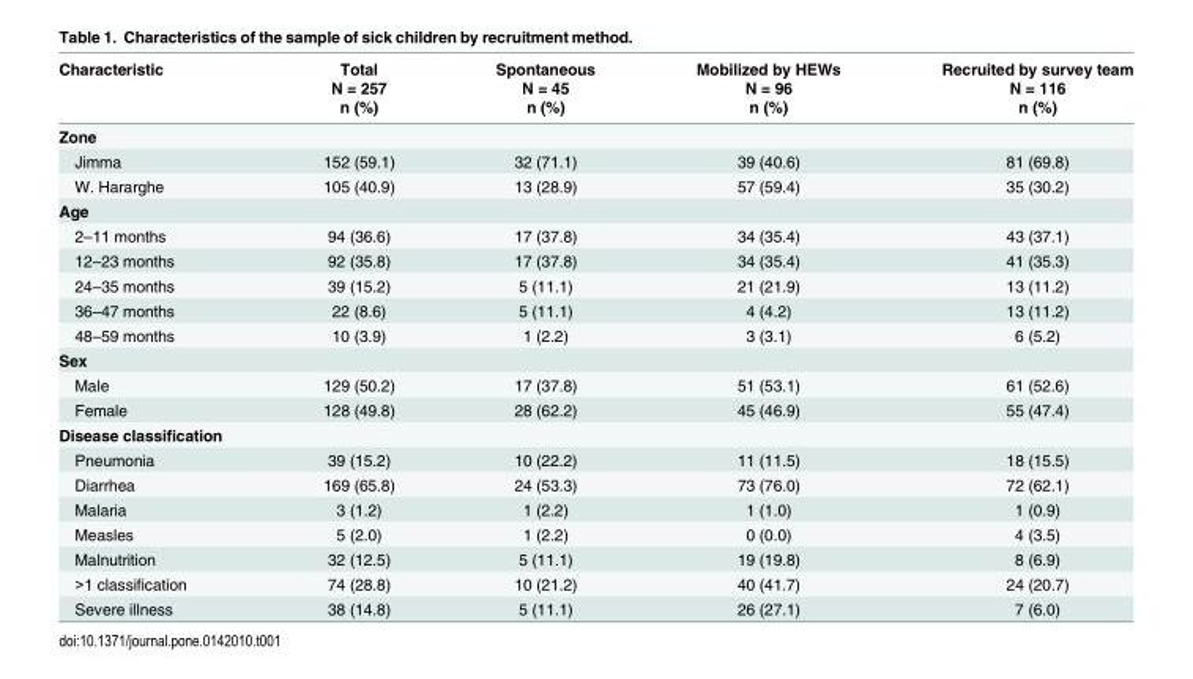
<table><thead><tr><td rowspan="3">Characteristic</td><td rowspan="3">Total N = 257 n (%)</td><td rowspan="3">Spontaneous N = 45 n (%)</td><td rowspan="3">Mobilized by HEWs N = 96 n (%)</td><td rowspan="3">Recruited by survey team N = 116 n (%)</td></tr><tr></tr><tr></tr></thead><tbody><tr><td colspan="5">Zone</td></tr><tr><td>Jimma</td><td>152 (59.1)</td><td>32 (71.1)</td><td>39 (40.6)</td><td>81 (69.8)</td></tr><tr><td>W. Hararghe</td><td>105 (40.9)</td><td>13 (28.9)</td><td>57 (59.4)</td><td>35 (30.2)</td></tr><tr><td colspan="5">Age</td></tr><tr><td>2–11 months</td><td>94 (36.6)</td><td>17 (37.8)</td><td>34 (35.4)</td><td>43 (37.1)</td></tr><tr><td>12–23 months</td><td>92 (35.8)</td><td>17 (37.8)</td><td>34 (35.4)</td><td>41 (35.3)</td></tr><tr><td>24–35 months</td><td>39 (15.2)</td><td>5 (11.1)</td><td>21 (21.9)</td><td>13 (11.2)</td></tr><tr><td>36–47 months</td><td>22 (8.6)</td><td>5 (11.1)</td><td>4 (4.2)</td><td>13 (11.2)</td></tr><tr><td>48–59 months</td><td>10 (3.9)</td><td>1 (2.2)</td><td>3 (3.1)</td><td>6 (5.2)</td></tr><tr><td colspan="5">Sex</td></tr><tr><td>Male</td><td>129 (50.2)</td><td>17 (37.8)</td><td>51 (53.1)</td><td>61 (52.6)</td></tr><tr><td>Female</td><td>128 (49.8)</td><td>28 (62.2)</td><td>45 (46.9)</td><td>55 (47.4)</td></tr><tr><td colspan="5">Disease classification</td></tr><tr><td>Pneumonia</td><td>39 (15.2)</td><td>10 (22.2)</td><td>11 (11.5)</td><td>18 (15.5)</td></tr><tr><td>Diarrhea</td><td>169 (65.8)</td><td>24 (53.3)</td><td>73 (76.0)</td><td>72 (62.1)</td></tr><tr><td>Malaria</td><td>3 (1.2)</td><td>1 (2.2)</td><td>1 (1.0)</td><td>1 (0.9)</td></tr><tr><td>Measles</td><td>5 (2.0)</td><td>1 (2.2)</td><td>0 (0.0)</td><td>4 (3.5)</td></tr><tr><td>Malnutrition</td><td>32 (12.5)</td><td>5 (11.1)</td><td>19 (19.8)</td><td>8 (6.9)</td></tr><tr><td>&gt;1 classification</td><td>74 (28.8)</td><td>10 (21.2)</td><td>40 (41.7)</td><td>24 (20.7)</td></tr><tr><td>Severe illness</td><td>38 (14.8)</td><td>5 (11.1)</td><td>26 (27.1)</td><td>7 (6.0)</td></tr></tbody></table>